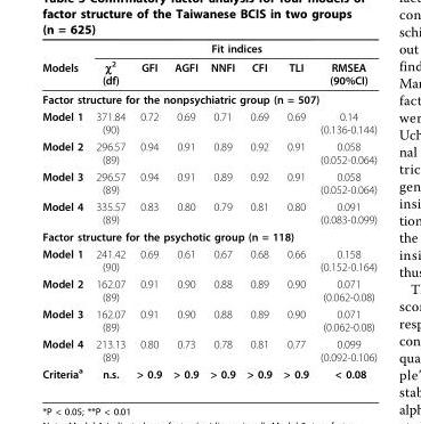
<table><thead><tr><td rowspan="2">Models</td><td colspan="7">Fit indices</td></tr><tr><td>χ<sup>2</sup> (df)</td><td>GFI</td><td>AGFI</td><td>NNFI</td><td>CFI</td><td>TLI</td><td>RMSEA (90%CI)</td></tr></thead><tbody><tr><td colspan="8">Factor structure for the nonpsychiatric group (n = 507)</td></tr><tr><td>Model 1</td><td>371.84 (90)</td><td>0.72</td><td>0.69</td><td>0.71</td><td>0.69</td><td>0.69</td><td>0.14 (0.136-0.144)</td></tr><tr><td>Model 2</td><td>296.57 (89)</td><td>0.94</td><td>0.91</td><td>0.89</td><td>0.92</td><td>0.91</td><td>0.058 (0.052-0.064)</td></tr><tr><td>Model 3</td><td>296.57 (89)</td><td>0.94</td><td>0.91</td><td>0.89</td><td>0.92</td><td>0.91</td><td>0.058 (0.052-0.064)</td></tr><tr><td>Model 4</td><td>335.57 (89)</td><td>0.83</td><td>0.80</td><td>0.79</td><td>0.81</td><td>0.80</td><td>0.091 (0.083-0.099)</td></tr><tr><td colspan="8">Factor structure for the psychotic group (n = 118)</td></tr><tr><td>Model 1</td><td>241.42 (90)</td><td>0.69</td><td>0.61</td><td>0.67</td><td>0.68</td><td>0.66</td><td>0.158 (0.152-0.164)</td></tr><tr><td>Model 2</td><td>162.07 (89)</td><td>0.91</td><td>0.90</td><td>0.88</td><td>0.89</td><td>0.90</td><td>0.071 (0.062-0.08)</td></tr><tr><td>Model 3</td><td>162.07 (89)</td><td>0.91</td><td>0.90</td><td>0.88</td><td>0.89</td><td>0.90</td><td>0.071 (0.062-0.08)</td></tr><tr><td>Model 4</td><td>213.13 (89)</td><td>0.80</td><td>0.73</td><td>0.78</td><td>0.81</td><td>0.77</td><td>0.099 (0.092-0.106)</td></tr><tr><td>Criteria<sup>a</sup></td><td>n.s.</td><td>&gt; 0.9</td><td>&gt; 0.9</td><td>&gt; 0.9</td><td>&gt; 0.9</td><td>&gt; 0.9</td><td>&lt; 0.08</td></tr></tbody></table>